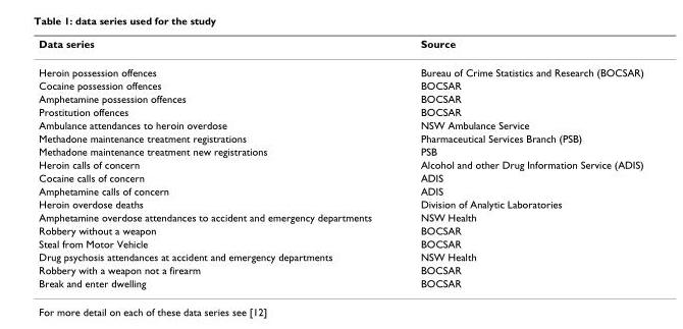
<table><thead><tr><td>Data series</td><td>Source</td></tr></thead><tbody><tr><td>Heroin possession offences</td><td>Bureau of Crime Statistics and Research (BOCSAR)</td></tr><tr><td>Cocaine possession offences</td><td>BOCSAR</td></tr><tr><td>Amphetamine possession offences</td><td>BOCSAR</td></tr><tr><td>Prostitution offences</td><td>BOCSAR</td></tr><tr><td>Ambulance attendances to heroin overdose</td><td>NSW Ambulance Service</td></tr><tr><td>Methadone maintenance treatment registrations</td><td>Pharmaceutical Services Branch (PSB)</td></tr><tr><td>Methadone maintenance treatment new registrations</td><td>PSB</td></tr><tr><td>Heroin calls of concern</td><td>Alcohol and other Drug Information Service (ADIS)</td></tr><tr><td>Cocaine calls of concern</td><td>ADIS</td></tr><tr><td>Amphetamine calls of concern</td><td>ADIS</td></tr><tr><td>Heroin overdose deaths</td><td>Division of Analytic Laboratories</td></tr><tr><td>Amphetamine overdose attendances to accident and emergency departments</td><td>NSW Health</td></tr><tr><td>Robbery without a weapon</td><td>BOCSAR</td></tr><tr><td>Steal from Motor Vehicle</td><td>BOCSAR</td></tr><tr><td>Drug psychosis attendances at accident and emergency departments</td><td>NSW Health</td></tr><tr><td>Robbery with a weapon not a firearm</td><td>BOCSAR</td></tr><tr><td>Break and enter dwelling</td><td>BOCSAR</td></tr></tbody></table>